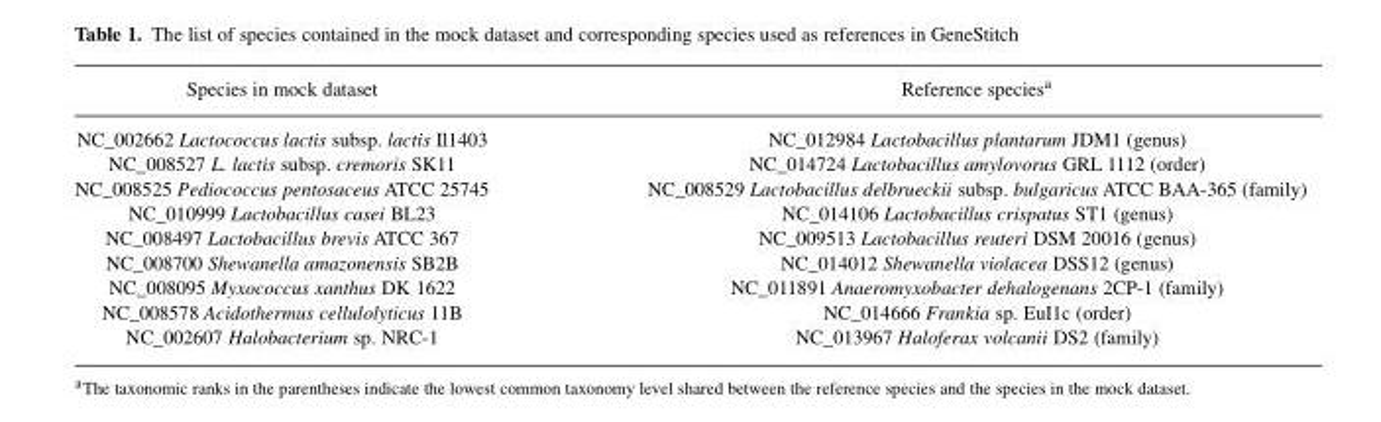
<table><thead><tr><td>Species in mock dataset</td><td>Reference species<sup>a</sup></td></tr></thead><tbody><tr><td>NC_002662 Lactococcus lactis subsp. lactis Il1403</td><td>NC_012984 Lactobacillus plantarum JDM1 (genus)</td></tr><tr><td>NC_008527 L. lactis subsp. cremoris SK11</td><td>NC_014724 Lactobacillus amylovorus GRL 1112 (order)</td></tr><tr><td>NC_008525 Pediococcus pentosaceus ATCC 25745</td><td>NC_008529 Lactobacillus delbrueckii subsp. bulgaricus ATCC BAA-365 (family)</td></tr><tr><td>NC_010999 Lactobacillus casei BL23</td><td>NC_014106 Lactobacillus crispatus ST1 (genus)</td></tr><tr><td>NC_008497 Lactobacillus brevis ATCC 367</td><td>NC_009513 Lactobacillus reuteri DSM 20016 (genus)</td></tr><tr><td>NC_008700 Shewanella amazonensis SB2B</td><td>NC_014012 Shewanella violacea DSS12 (genus)</td></tr><tr><td>NC_008095 Myxococcus xanthus DK 1622</td><td>NC_011891 Anaeromyxobacter dehalogenans 2CP-1 (family)</td></tr><tr><td>NC_008578 Acidothermus cellulolyticus 11B</td><td>NC_014666 Frankia sp. EuI1c (order)</td></tr><tr><td>NC_002607 Halobacterium sp. NRC-1</td><td>NC_013967 Haloferax volcanii DS2 (family)</td></tr></tbody></table>